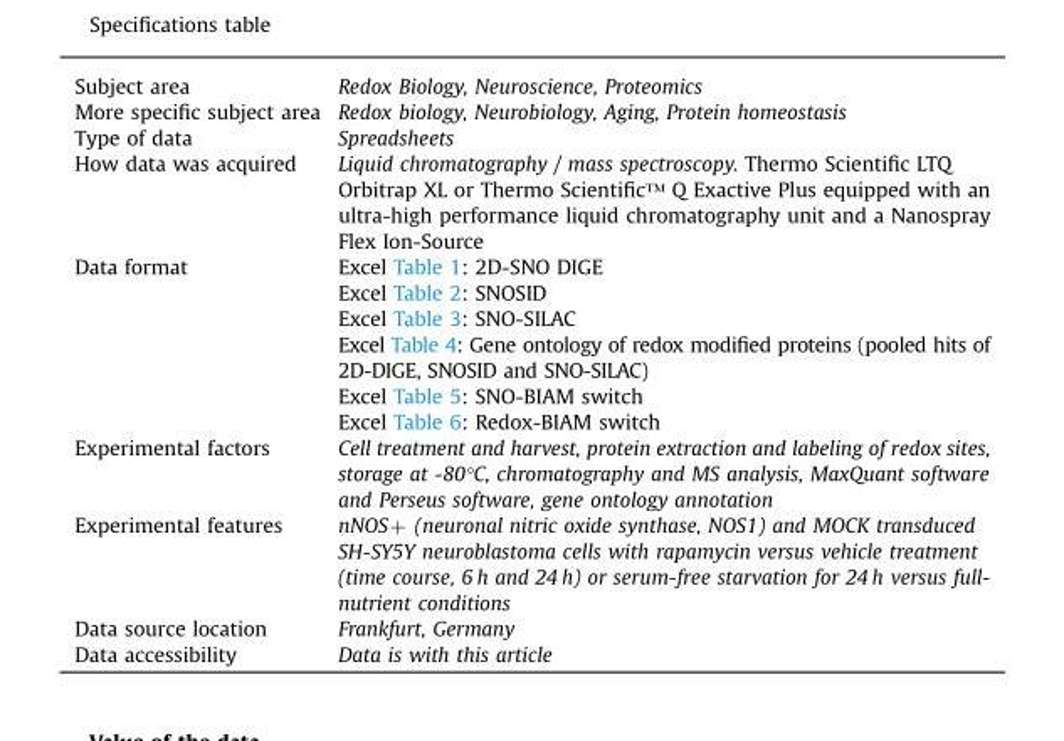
<table><tbody><tr><td>Subject area</td><td>Redox Biology, Neuroscience, Proteomics</td></tr><tr><td>More specific subject area</td><td>Redox biology, Neurobiology, Aging, Protein homeostasis</td></tr><tr><td>Type of data</td><td>Spreadsheets</td></tr><tr><td>How data was acquired</td><td>Liquid chromatography / mass spectroscopy. Thermo Scientific LTQ Orbitrap XL or Thermo Scientific™ Q Exactive Plus equipped with an ultra-high performance liquid chromatography unit and a Nanospray Flex Ion-Source</td></tr><tr><td rowspan="6">Data format</td><td>Excel Table 1: 2D-SNO DIGE</td></tr><tr><td>Excel Table 2: SNOSID</td></tr><tr><td>Excel Table 3: SNO-SILAC</td></tr><tr><td>Excel Table 4: Gene ontology of redox modified proteins (pooled hits of 2D-DIGE, SNOSID and SNO-SILAC)</td></tr><tr><td>Excel Table 5: SNO-BIAM switch</td></tr><tr><td>Excel Table 6: Redox-BIAM switch</td></tr><tr><td>Experimental factors</td><td>Cell treatment and harvest, protein extraction and labeling of redox sites, storage at -80°C, chromatography and MS analysis, MaxQuant software and Perseus software, gene ontology annotation</td></tr><tr><td>Experimental features</td><td>nNOS+ (neuronal nitric oxide synthase, NOS1) and MOCK transduced SH-SY5Y neuroblastoma cells with rapamycin versus vehicle treatment (time course, 6 h and 24 h) or serum-free starvation for 24 h versus full- nutrient conditions</td></tr><tr><td>Data source location</td><td>Frankfurt, Germany</td></tr><tr><td>Data accessibility</td><td>Data is with this article</td></tr></tbody></table>